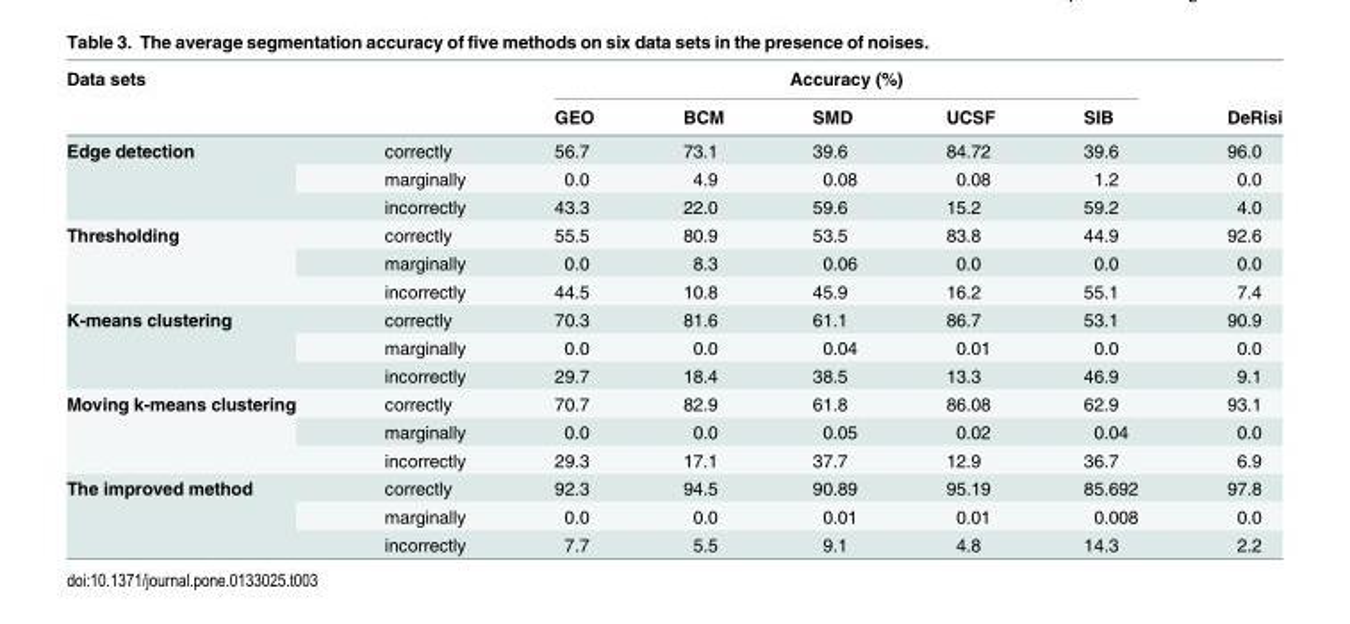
<table><thead><tr><td rowspan="2">Data sets</td><td rowspan="2"></td><td colspan="5">Accuracy (%)</td><td rowspan="2">DeRisi</td></tr><tr><td>GEO</td><td>BCM</td><td>SMD</td><td>UCSF</td><td>SIB</td></tr></thead><tbody><tr><td rowspan="3">Edge detection</td><td>correctly</td><td>56.7</td><td>73.1</td><td>39.6</td><td>84.72</td><td>39.6</td><td>96.0</td></tr><tr><td>marginally</td><td>0.0</td><td>4.9</td><td>0.08</td><td>0.08</td><td>1.2</td><td>0.0</td></tr><tr><td>incorrectly</td><td>43.3</td><td>22.0</td><td>59.6</td><td>15.2</td><td>59.2</td><td>4.0</td></tr><tr><td rowspan="3">Thresholding</td><td>correctly</td><td>55.5</td><td>80.9</td><td>53.5</td><td>83.8</td><td>44.9</td><td>92.6</td></tr><tr><td>marginally</td><td>0.0</td><td>8.3</td><td>0.06</td><td>0.0</td><td>0.0</td><td>0.0</td></tr><tr><td>incorrectly</td><td>44.5</td><td>10.8</td><td>45.9</td><td>16.2</td><td>55.1</td><td>7.4</td></tr><tr><td rowspan="3">K-means clustering</td><td>correctly</td><td>70.3</td><td>81.6</td><td>61.1</td><td>86.7</td><td>53.1</td><td>90.9</td></tr><tr><td>marginally</td><td>0.0</td><td>0.0</td><td>0.04</td><td>0.01</td><td>0.0</td><td>0.0</td></tr><tr><td>incorrectly</td><td>29.7</td><td>18.4</td><td>38.5</td><td>13.3</td><td>46.9</td><td>9.1</td></tr><tr><td rowspan="3">Moving k-means clustering</td><td>correctly</td><td>70.7</td><td>82.9</td><td>61.8</td><td>86.08</td><td>62.9</td><td>93.1</td></tr><tr><td>marginally</td><td>0.0</td><td>0.0</td><td>0.05</td><td>0.02</td><td>0.04</td><td>0.0</td></tr><tr><td>incorrectly</td><td>29.3</td><td>17.1</td><td>37.7</td><td>12.9</td><td>36.7</td><td>6.9</td></tr><tr><td rowspan="3">The improved method</td><td>correctly</td><td>92.3</td><td>94.5</td><td>90.89</td><td>95.19</td><td>85.692</td><td>97.8</td></tr><tr><td>marginally</td><td>0.0</td><td>0.0</td><td>0.01</td><td>0.01</td><td>0.008</td><td>0.0</td></tr><tr><td>incorrectly</td><td>7.7</td><td>5.5</td><td>9.1</td><td>4.8</td><td>14.3</td><td>2.2</td></tr></tbody></table>